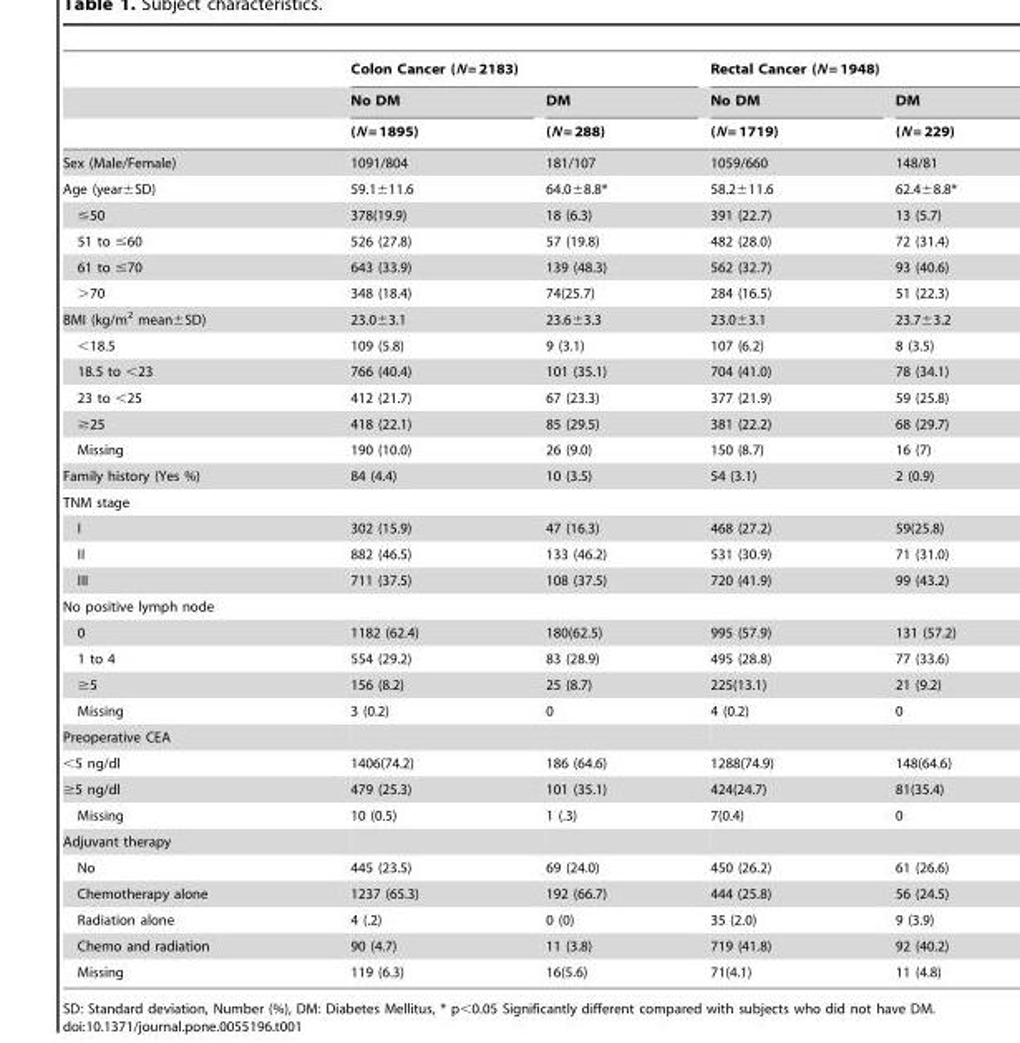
<table><thead><tr><td rowspan="3"></td><td colspan="2">Colon Cancer (N = 2183)</td><td colspan="2">Rectal Cancer (N = 1948)</td></tr><tr><td rowspan="2">No DM (N = 1895)</td><td rowspan="2">DM (N = 288)</td><td rowspan="2">No DM (N = 1719)</td><td rowspan="2">DM (N = 229)</td></tr><tr></tr></thead><tbody><tr><td>Sex (Male/Female)</td><td>1091/804</td><td>181/107</td><td>1059/660</td><td>148/81</td></tr><tr><td>Age (year±SD)</td><td>59.1±11.6</td><td>64.0±8.8*</td><td>58.2±11.6</td><td>62.4±8.8*</td></tr><tr><td>≤50</td><td>378(19.9)</td><td>18 (6.3)</td><td>391 (22.7)</td><td>13 (5.7)</td></tr><tr><td>51 to ≤60</td><td>526 (27.8)</td><td>57 (19.8)</td><td>482 (28.0)</td><td>72 (31.4)</td></tr><tr><td>61 to ≤70</td><td>643 (33.9)</td><td>139 (48.3)</td><td>562 (32.7)</td><td>93 (40.6)</td></tr><tr><td>&gt;70</td><td>348 (18.4)</td><td>74(25.7)</td><td>284 (16.5)</td><td>51 (22.3)</td></tr><tr><td>BMI (kg/m<sup>2</sup> mean±SD)</td><td>23.0±3.1</td><td>23.6±3.3</td><td>23.0±3.1</td><td>23.7±3.2</td></tr><tr><td>&lt;18.5</td><td>109 (5.8)</td><td>9 (3.1)</td><td>107 (6.2)</td><td>8 (3.5)</td></tr><tr><td>18.5 to &lt;23</td><td>766 (40.4)</td><td>101 (35.1)</td><td>704 (41.0)</td><td>78 (34.1)</td></tr><tr><td>23 to &lt;25</td><td>412 (21.7)</td><td>67 (23.3)</td><td>377 (21.9)</td><td>59 (25.8)</td></tr><tr><td>≥25</td><td>418 (22.1)</td><td>85 (29.5)</td><td>381 (22.2)</td><td>68 (29.7)</td></tr><tr><td>Missing</td><td>190 (10.0)</td><td>26 (9.0)</td><td>150 (8.7)</td><td>16 (7)</td></tr><tr><td>Family history (Yes %)</td><td>84 (4.4)</td><td>10 (3.5)</td><td>54 (3.1)</td><td>2 (0.9)</td></tr><tr><td colspan="5">TNM stage</td></tr><tr><td>I</td><td>302 (15.9)</td><td>47 (16.3)</td><td>468 (27.2)</td><td>59(25.8)</td></tr><tr><td>II</td><td>882 (46.5)</td><td>133 (46.2)</td><td>531 (30.9)</td><td>71 (31.0)</td></tr><tr><td>III</td><td>711 (37.5)</td><td>108 (37.5)</td><td>720 (41.9)</td><td>99 (43.2)</td></tr><tr><td colspan="5">No positive lymph node</td></tr><tr><td>0</td><td>1182 (62.4)</td><td>180(62.5)</td><td>995 (57.9)</td><td>131 (57.2)</td></tr><tr><td>1 to 4</td><td>554 (29.2)</td><td>83 (28.9)</td><td>495 (28.8)</td><td>77 (33.6)</td></tr><tr><td>≥5</td><td>156 (8.2)</td><td>25 (8.7)</td><td>225(13.1)</td><td>21 (9.2)</td></tr><tr><td>Missing</td><td>3 (0.2)</td><td>0</td><td>4 (0.2)</td><td>0</td></tr><tr><td colspan="5">Preoperative CEA</td></tr><tr><td>&lt;5 ng/dl</td><td>1406(74.2)</td><td>186 (64.6)</td><td>1288(74.9)</td><td>148(64.6)</td></tr><tr><td>≥5 ng/dl</td><td>479 (25.3)</td><td>101 (35.1)</td><td>424(24.7)</td><td>81(35.4)</td></tr><tr><td>Missing</td><td>10 (0.5)</td><td>1 (.3)</td><td>7(0.4)</td><td>0</td></tr><tr><td colspan="5">Adjuvant therapy</td></tr><tr><td>No</td><td>445 (23.5)</td><td>69 (24.0)</td><td>450 (26.2)</td><td>61 (26.6)</td></tr><tr><td>Chemotherapy alone</td><td>1237 (65.3)</td><td>192 (66.7)</td><td>444 (25.8)</td><td>56 (24.5)</td></tr><tr><td>Radiation alone</td><td>4 (.2)</td><td>0 (0)</td><td>35 (2.0)</td><td>9 (3.9)</td></tr><tr><td>Chemo and radiation</td><td>90 (4.7)</td><td>11 (3.8)</td><td>719 (41.8)</td><td>92 (40.2)</td></tr><tr><td>Missing</td><td>119 (6.3)</td><td>16(5.6)</td><td>71(4.1)</td><td>11 (4.8)</td></tr></tbody></table>